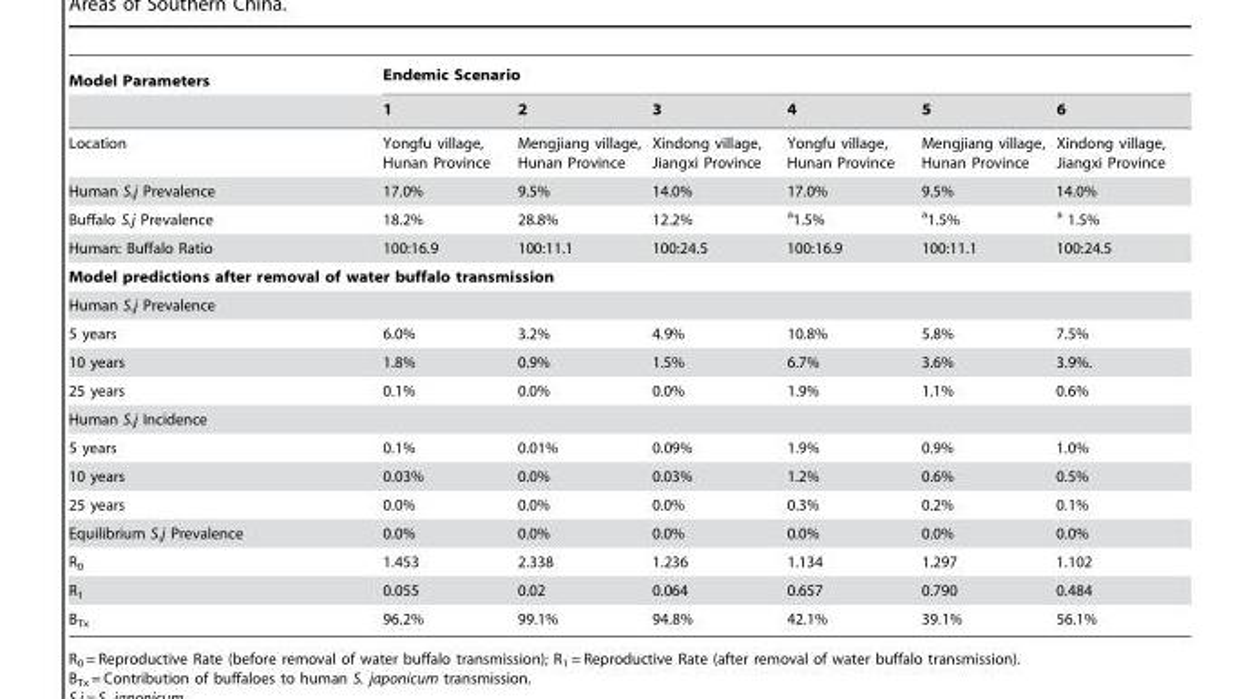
<table><thead><tr><td rowspan="2">Model Parameters</td><td colspan="6">Endemic Scenario</td></tr><tr><td>1</td><td>2</td><td>3</td><td>4</td><td>5</td><td>6</td></tr></thead><tbody><tr><td>Location</td><td>Yongfu village, Hunan Province</td><td>Mengjiang village, Hunan Province</td><td>Xindong village, Jiangxi Province</td><td>Yongfu village, Hunan Province</td><td>Mengjiang village, Hunan Province</td><td>Xindong village, Jiangxi Province</td></tr><tr><td>Human S.j Prevalence</td><td>17.0%</td><td>9.5%</td><td>14.0%</td><td>17.0%</td><td>9.5%</td><td>14.0%</td></tr><tr><td>Buffalo S.j Prevalence</td><td>18.2%</td><td>28.8%</td><td>12.2%</td><td>a1.5%</td><td>a1.5%</td><td>a 1.5%</td></tr><tr><td>Human: Buffalo Ratio</td><td>100:16.9</td><td>100:11.1</td><td>100:24.5</td><td>100:16.9</td><td>100:11.1</td><td>100:24.5</td></tr><tr><td colspan="7">Model predictions after removal of water buffalo transmission</td></tr><tr><td colspan="7">Human S.j Prevalence</td></tr><tr><td>5 years</td><td>6.0%</td><td>3.2%</td><td>4.9%</td><td>10.8%</td><td>5.8%</td><td>7.5%</td></tr><tr><td>10 years</td><td>1.8%</td><td>0.9%</td><td>1.5%</td><td>6.7%</td><td>3.6%</td><td>3.9%.</td></tr><tr><td>25 years</td><td>0.1%</td><td>0.0%</td><td>0.0%</td><td>1.9%</td><td>1.1%</td><td>0.6%</td></tr><tr><td colspan="7">Human S.j Incidence</td></tr><tr><td>5 years</td><td>0.1%</td><td>0.01%</td><td>0.09%</td><td>1.9%</td><td>0.9%</td><td>1.0%</td></tr><tr><td>10 years</td><td>0.03%</td><td>0.0%</td><td>0.03%</td><td>1.2%</td><td>0.6%</td><td>0.5%</td></tr><tr><td>25 years</td><td>0.0%</td><td>0.0%</td><td>0.0%</td><td>0.3%</td><td>0.2%</td><td>0.1%</td></tr><tr><td>Equilibrium S.j Prevalence</td><td>0.0%</td><td>0.0%</td><td>0.0%</td><td>0.0%</td><td>0.0%</td><td>0.0%</td></tr><tr><td>R<sub>0</sub></td><td>1.453</td><td>2.338</td><td>1.236</td><td>1.134</td><td>1.297</td><td>1.102</td></tr><tr><td>R<sub>1</sub></td><td>0.055</td><td>0.02</td><td>0.064</td><td>0.657</td><td>0.790</td><td>0.484</td></tr><tr><td>B<sub>Tx</sub></td><td>96.2%</td><td>99.1%</td><td>94.8%</td><td>42.1%</td><td>39.1%</td><td>56.1%</td></tr></tbody></table>